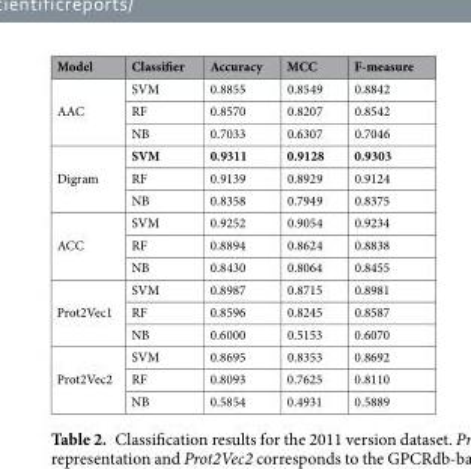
<table><thead><tr><td>Model</td><td>Classifier</td><td>Accuracy</td><td>MCC</td><td>F-measure</td></tr></thead><tbody><tr><td rowspan="3">AAC</td><td>SVM</td><td>0.8855</td><td>0.8549</td><td>0.8842</td></tr><tr><td>RF</td><td>0.8570</td><td>0.8207</td><td>0.8542</td></tr><tr><td>NB</td><td>0.7033</td><td>0.6307</td><td>0.7046</td></tr><tr><td rowspan="3">Digram</td><td>SVM</td><td>0.9311</td><td>0.9128</td><td>0.9303</td></tr><tr><td>RF</td><td>0.9139</td><td>0.8929</td><td>0.9124</td></tr><tr><td>NB</td><td>0.8358</td><td>0.7949</td><td>0.8375</td></tr><tr><td rowspan="3">ACC</td><td>SVM</td><td>0.9252</td><td>0.9054</td><td>0.9234</td></tr><tr><td>RF</td><td>0.8894</td><td>0.8624</td><td>0.8838</td></tr><tr><td>NB</td><td>0.8430</td><td>0.8064</td><td>0.8455</td></tr><tr><td rowspan="3">Prot2Vec1</td><td>SVM</td><td>0.8987</td><td>0.8715</td><td>0.8981</td></tr><tr><td>RF</td><td>0.8596</td><td>0.8245</td><td>0.8587</td></tr><tr><td>NB</td><td>0.6000</td><td>0.5153</td><td>0.6070</td></tr><tr><td rowspan="3">Prot2Vec2</td><td>SVM</td><td>0.8695</td><td>0.8353</td><td>0.8692</td></tr><tr><td>RF</td><td>0.8093</td><td>0.7625</td><td>0.8110</td></tr><tr><td>NB</td><td>0.5854</td><td>0.4931</td><td>0.5889</td></tr></tbody></table>